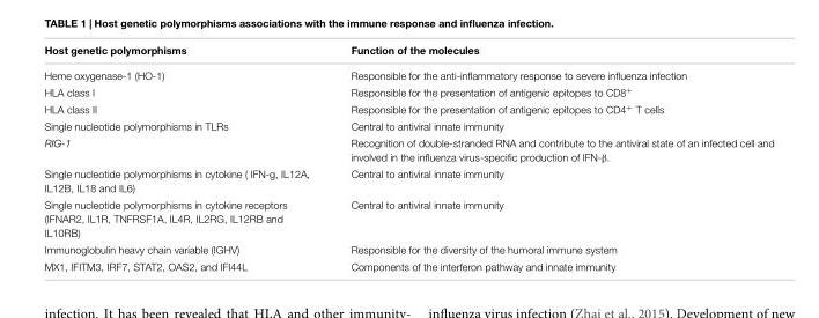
<table><thead><tr><td>Host genetic polymorphisms</td><td>Function of the molecules</td></tr></thead><tbody><tr><td>Heme oxygenase-1 (HO-1)</td><td>Responsible for the anti-inflammatory response to severe influenza infection</td></tr><tr><td>HLA class I</td><td>Responsible for the presentation of antigenic epitopes to CD8<sup>+</sup></td></tr><tr><td>HLA class II</td><td>Responsible for the presentation of antigenic epitopes to CD4<sup>+</sup> T cells</td></tr><tr><td>Single nucleotide polymorphisms in TLRs</td><td>Central to antiviral innate immunity</td></tr><tr><td>RIG-1</td><td>Recognition of double-stranded RNA and contribute to the antiviral state of an infected cell and involved in the influenza virus-specific production of IFN-β.</td></tr><tr><td>Single nucleotide polymorphisms in cytokine ( IFN-g, IL12A, IL12B, IL18 and IL6)</td><td>Central to antiviral innate immunity</td></tr><tr><td>Single nucleotide polymorphisms in cytokine receptors (IFNAR2, IL1R, TNFRSF1A, IL4R, IL2RG, IL12RB and IL10RB)</td><td>Central to antiviral innate immunity</td></tr><tr><td>Immunoglobulin heavy chain variable (IGHV)</td><td>Responsible for the diversity of the humoral immune system</td></tr><tr><td>MX1, IFITM3, IRF7, STAT2, OAS2, and IFI44L</td><td>Components of the interferon pathway and innate immunity</td></tr></tbody></table>